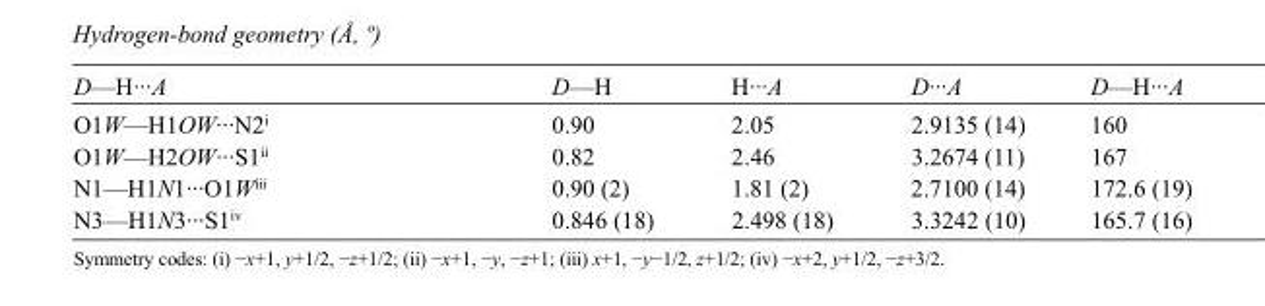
<table><tbody><tr><td>D—H···A</td><td>D—H</td><td>H···A</td><td>D···A</td><td>D—H···A</td></tr><tr><td>O1W—H1OW···N2<sup>i</sup></td><td>0.90</td><td>2.05</td><td>2.9135 (14)</td><td>160</td></tr><tr><td>O1W—H2OW···S1<sup>ii</sup></td><td>0.82</td><td>2.46</td><td>3.2674 (11)</td><td>167</td></tr><tr><td>N1—H1N1···O1W<sup>iii</sup></td><td>0.90 (2)</td><td>1.81 (2)</td><td>2.7100 (14)</td><td>172.6 (19)</td></tr><tr><td>N3—H1N3···S1<sup>iv</sup></td><td>0.846 (18)</td><td>2.498 (18)</td><td>3.3242 (10)</td><td>165.7 (16)</td></tr></tbody></table>